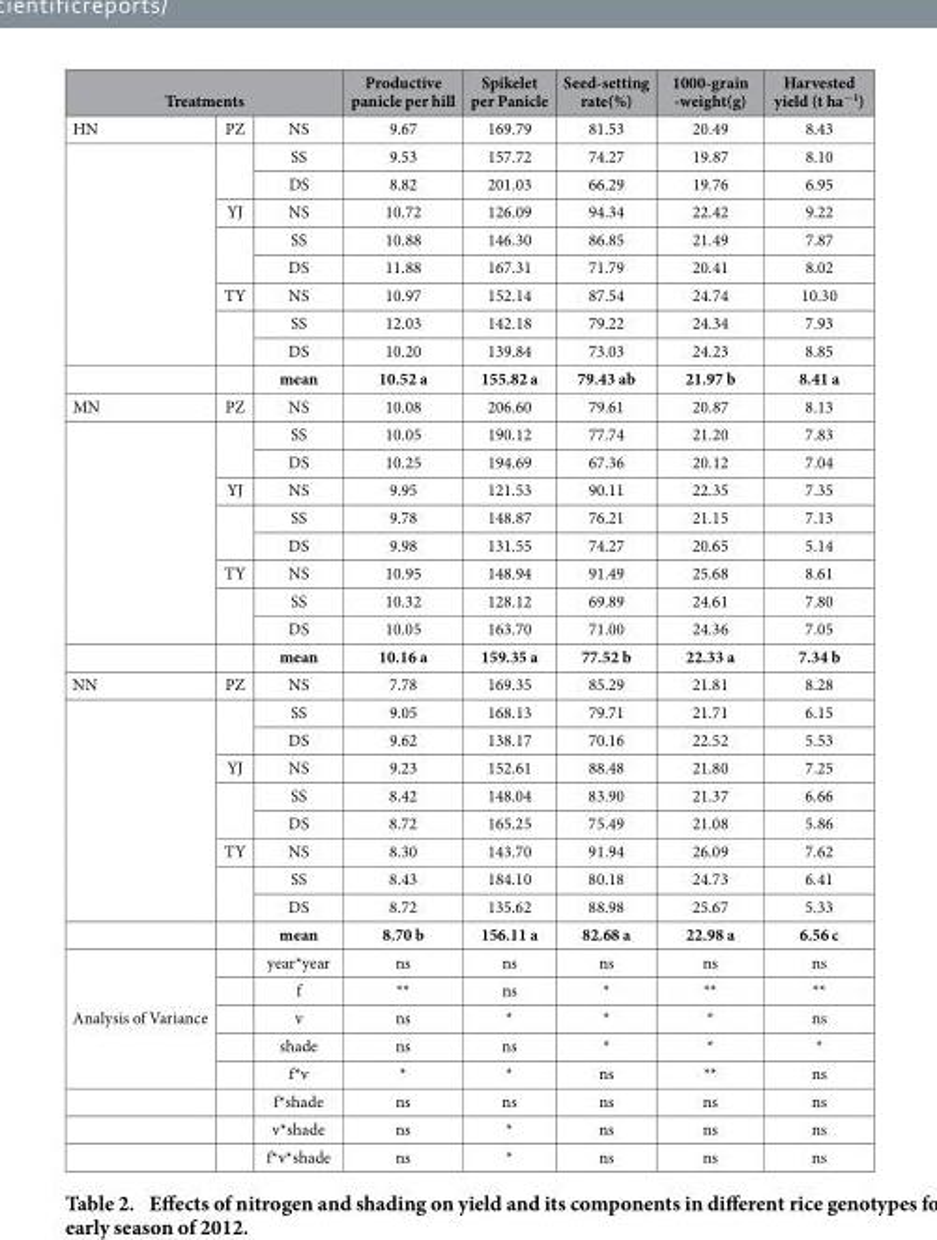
<table><thead><tr><td colspan="3">Treatments</td><td rowspan="2">Productive panicle per hill 9.67</td><td rowspan="2">Spikelet per Panicle 169.79</td><td rowspan="2">Seed-setting rate(%) 81.53</td><td rowspan="2">1000-grain -weight(g) 20.49</td><td rowspan="2">Harvested yield (t ha<sup>−1</sup>) 8.43</td></tr><tr><td>HN</td><td>PZ</td><td>NS</td></tr></thead><tbody><tr><td rowspan="8"></td><td rowspan="2"></td><td>SS</td><td>9.53</td><td>157.72</td><td>74.27</td><td>19.87</td><td>8.10</td></tr><tr><td>DS</td><td>8.82</td><td>201.03</td><td>66.29</td><td>19.76</td><td>6.95</td></tr><tr><td>YJ</td><td>NS</td><td>10.72</td><td>126.09</td><td>94.34</td><td>22.42</td><td>9.22</td></tr><tr><td rowspan="2"></td><td>SS</td><td>10.88</td><td>146.30</td><td>86.85</td><td>21.49</td><td>7.87</td></tr><tr><td>DS</td><td>11.88</td><td>167.31</td><td>71.79</td><td>20.41</td><td>8.02</td></tr><tr><td>TY</td><td>NS</td><td>10.97</td><td>152.14</td><td>87.54</td><td>24.74</td><td>10.30</td></tr><tr><td rowspan="2"></td><td>SS</td><td>12.03</td><td>142.18</td><td>79.22</td><td>24.34</td><td>7.93</td></tr><tr><td>DS</td><td>10.20</td><td>139.84</td><td>73.03</td><td>24.23</td><td>8.85</td></tr><tr><td></td><td></td><td>mean</td><td>10.52 a</td><td>155.82 a</td><td>79.43 ab</td><td>21.97 b</td><td>8.41 a</td></tr><tr><td rowspan="10">MN</td><td>PZ</td><td>NS</td><td>10.08</td><td>206.60</td><td>79.61</td><td>20.87</td><td>8.13</td></tr><tr><td rowspan="2"></td><td>SS</td><td>10.05</td><td>190.12</td><td>77.74</td><td>21.20</td><td>7.83</td></tr><tr><td>DS</td><td>10.25</td><td>194.69</td><td>67.36</td><td>20.12</td><td>7.04</td></tr><tr><td>YJ</td><td>NS</td><td>9.95</td><td>121.53</td><td>90.11</td><td>22.35</td><td>7.35</td></tr><tr><td rowspan="2"></td><td>SS</td><td>9.78</td><td>148.87</td><td>76.21</td><td>21.15</td><td>7.13</td></tr><tr><td>DS</td><td>9.98</td><td>131.55</td><td>74.27</td><td>20.65</td><td>5.14</td></tr><tr><td>TY</td><td>NS</td><td>10.95</td><td>148.94</td><td>91.49</td><td>25.68</td><td>8.61</td></tr><tr><td rowspan="2"></td><td>SS</td><td>10.32</td><td>128.12</td><td>69.89</td><td>24.61</td><td>7.80</td></tr><tr><td>DS</td><td>10.05</td><td>163.70</td><td>71.00</td><td>24.36</td><td>7.05</td></tr><tr><td></td><td>mean</td><td>10.16 a</td><td>159.35 a</td><td>77.52 b</td><td>22.33 a</td><td>7.34 b</td></tr><tr><td rowspan="10">NN</td><td>PZ</td><td>NS</td><td>7.78</td><td>169.35</td><td>85.29</td><td>21.81</td><td>8.28</td></tr><tr><td rowspan="2"></td><td>SS</td><td>9.05</td><td>168.13</td><td>79.71</td><td>21.71</td><td>6.15</td></tr><tr><td>DS</td><td>9.62</td><td>138.17</td><td>70.16</td><td>22.52</td><td>5.53</td></tr><tr><td>YJ</td><td>NS</td><td>9.23</td><td>152.61</td><td>88.48</td><td>21.80</td><td>7.25</td></tr><tr><td rowspan="2"></td><td>SS</td><td>8.42</td><td>148.04</td><td>83.90</td><td>21.37</td><td>6.66</td></tr><tr><td>DS</td><td>8.72</td><td>165.25</td><td>75.49</td><td>21.08</td><td>5.86</td></tr><tr><td>TY</td><td>NS</td><td>8.30</td><td>143.70</td><td>91.94</td><td>26.09</td><td>7.62</td></tr><tr><td rowspan="2"></td><td>SS</td><td>8.43</td><td>184.10</td><td>80.18</td><td>24.73</td><td>6.41</td></tr><tr><td>DS</td><td>8.72</td><td>135.62</td><td>88.98</td><td>25.67</td><td>5.33</td></tr><tr><td></td><td>mean</td><td>8.70 b</td><td>156.11 a</td><td>82.68 a</td><td>22.98 a</td><td>6.56 c</td></tr><tr><td rowspan="8">Analysis of Variance</td><td></td><td>year*year</td><td>ns</td><td>ns</td><td>ns</td><td>ns</td><td>ns</td></tr><tr><td></td><td>f</td><td>**</td><td>ns</td><td>*</td><td>**</td><td>**</td></tr><tr><td></td><td>v</td><td>ns</td><td>*</td><td>*</td><td>*</td><td>ns</td></tr><tr><td></td><td>shade</td><td>ns</td><td>ns</td><td>*</td><td>*</td><td>*</td></tr><tr><td></td><td>f*v</td><td>*</td><td>*</td><td>ns</td><td>**</td><td>ns</td></tr><tr><td></td><td>f*shade</td><td>ns</td><td>ns</td><td>ns</td><td>ns</td><td>ns</td></tr><tr><td></td><td>v*shade</td><td>ns</td><td>*</td><td>ns</td><td>ns</td><td>ns</td></tr><tr><td></td><td>f*v*shade</td><td>ns</td><td>*</td><td>ns</td><td>ns</td><td>ns</td></tr></tbody></table>